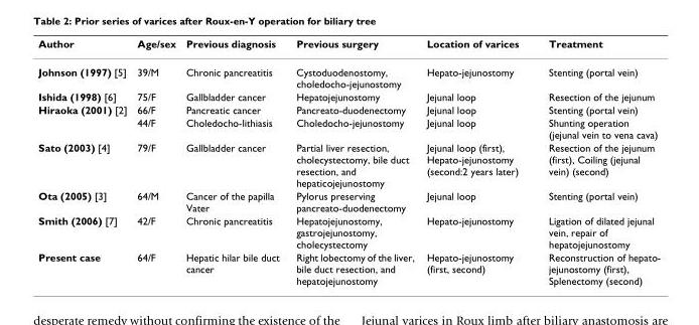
<table><thead><tr><td>Author</td><td>Age/sex</td><td>Previous diagnosis</td><td>Previous surgery</td><td>Location of varices</td><td>Treatment</td></tr></thead><tbody><tr><td>Johnson (1997) [5]</td><td>39/M</td><td>Chronic pancreatitis</td><td>Cystoduodenostomy, choledocho-jejunostomy</td><td>Hepato-jejunostomy</td><td>Stenting (portal vein)</td></tr><tr><td>Ishida (1998) [6]</td><td>75/F</td><td>Gallbladder cancer</td><td>Hepatojejunostomy</td><td>Jejunal loop</td><td>Resection of the jejunum</td></tr><tr><td rowspan="2">Hiraoka (2001) [2]</td><td>66/F</td><td>Pancreatic cancer</td><td>Pancreato-duodenectomy</td><td>Jejunal loop</td><td>Stenting (portal vein)</td></tr><tr><td>44/F</td><td>Choledocho-lithiasis</td><td>Choledocho-jejunostomy</td><td>Jejunal loop</td><td>Shunting operation (jejunal vein to vena cava)</td></tr><tr><td>Sato (2003) [4]</td><td>79/F</td><td>Gallbladder cancer</td><td>Partial liver resection, cholecystectomy, bile duct resection, and hepaticojejunostomy</td><td>Jejunal loop (first), Hepato-jejunostomy (second:2 years later)</td><td>Resection of the jejunum (first), Coiling (jejunal vein) (second)</td></tr><tr><td>Ota (2005) [3]</td><td>64/M</td><td>Cancer of the papilla Vater</td><td>Pylorus preserving pancreato-duodenectomy</td><td>Jejunal loop</td><td>Stenting (portal vein)</td></tr><tr><td>Smith (2006) [7]</td><td>42/F</td><td>Chronic pancreatitis</td><td>Hepatojejunostomy, gastrojejunostomy, cholecystectomy</td><td>Hepato-jejunostomy</td><td>Ligation of dilated jejunal vein, repair of hepatojejunostomy</td></tr><tr><td>Present case</td><td>64/F</td><td>Hepatic hilar bile duct cancer</td><td>Right lobectomy of the liver, bile duct resection, and hepatojejunostomy</td><td>Hepato-jejunostomy (first, second)</td><td>Reconstruction of hepato- jejunostomy (first), Splenectomy (second)</td></tr></tbody></table>